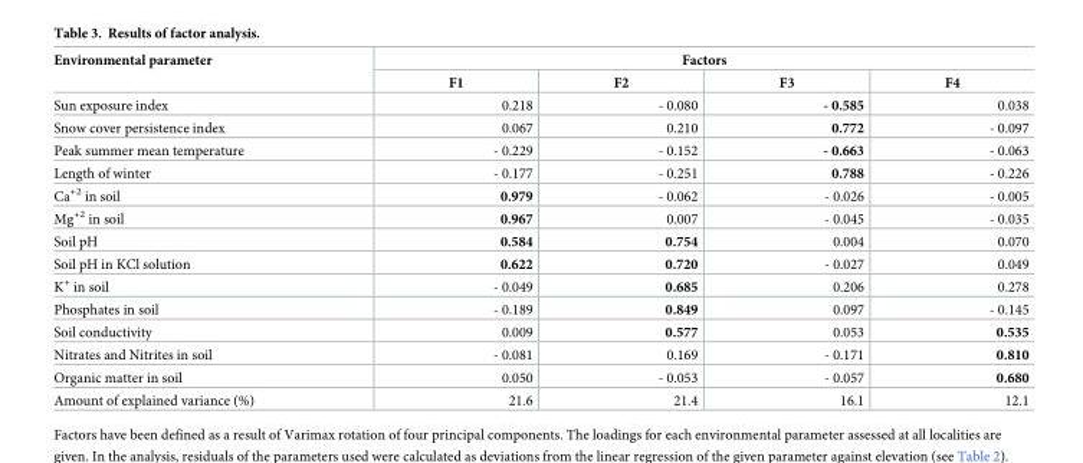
<table><thead><tr><td rowspan="2">Environmental parameter</td><td colspan="4">Factors</td></tr><tr><td>F1</td><td>F2</td><td>F3</td><td>F4</td></tr></thead><tbody><tr><td>Sun exposure index</td><td>0.218</td><td>- 0.080</td><td>- 0.585</td><td>0.038</td></tr><tr><td>Snow cover persistence index</td><td>0.067</td><td>0.210</td><td>0.772</td><td>- 0.097</td></tr><tr><td>Peak summer mean temperature</td><td>- 0.229</td><td>- 0.152</td><td>- 0.663</td><td>- 0.063</td></tr><tr><td>Length of winter</td><td>- 0.177</td><td>- 0.251</td><td>0.788</td><td>- 0.226</td></tr><tr><td>Ca<sup>+2</sup> in soil</td><td>0.979</td><td>- 0.062</td><td>- 0.026</td><td>- 0.005</td></tr><tr><td>Mg<sup>+2</sup> in soil</td><td>0.967</td><td>0.007</td><td>- 0.045</td><td>- 0.035</td></tr><tr><td>Soil pH</td><td>0.584</td><td>0.754</td><td>0.004</td><td>0.070</td></tr><tr><td>Soil pH in KCl solution</td><td>0.622</td><td>0.720</td><td>- 0.027</td><td>0.049</td></tr><tr><td>K<sup>+</sup> in soil</td><td>- 0.049</td><td>0.685</td><td>0.206</td><td>0.278</td></tr><tr><td>Phosphates in soil</td><td>- 0.189</td><td>0.849</td><td>0.097</td><td>- 0.145</td></tr><tr><td>Soil conductivity</td><td>0.009</td><td>0.577</td><td>0.053</td><td>0.535</td></tr><tr><td>Nitrates and Nitrites in soil</td><td>- 0.081</td><td>0.169</td><td>- 0.171</td><td>0.810</td></tr><tr><td>Organic matter in soil</td><td>0.050</td><td>- 0.053</td><td>- 0.057</td><td>0.680</td></tr><tr><td>Amount of explained variance (%)</td><td>21.6</td><td>21.4</td><td>16.1</td><td>12.1</td></tr></tbody></table>